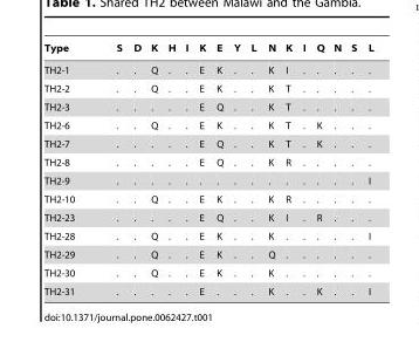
<table><thead><tr><td>Type</td><td>S</td><td>D</td><td>K</td><td>H</td><td>I</td><td>K</td><td>E</td><td>Y</td><td>L</td><td>N</td><td>K</td><td>I</td><td>Q</td><td>N</td><td>S</td><td>L</td></tr></thead><tbody><tr><td>TH2-1</td><td>.</td><td>.</td><td>Q</td><td>.</td><td>.</td><td>E</td><td>K</td><td>.</td><td>.</td><td>K</td><td>I</td><td>.</td><td>.</td><td>.</td><td>.</td><td>.</td></tr><tr><td>TH2-2</td><td>.</td><td>.</td><td>Q</td><td>.</td><td>.</td><td>E</td><td>K</td><td>.</td><td>.</td><td>K</td><td>T</td><td>.</td><td>.</td><td>.</td><td>.</td><td>.</td></tr><tr><td>TH2-3</td><td>.</td><td>.</td><td>.</td><td>.</td><td>.</td><td>E</td><td>Q</td><td>.</td><td>.</td><td>K</td><td>T</td><td>.</td><td>.</td><td>.</td><td>.</td><td>.</td></tr><tr><td>TH2-6</td><td>.</td><td>.</td><td>Q</td><td>.</td><td>.</td><td>E</td><td>K</td><td>.</td><td>.</td><td>K</td><td>T</td><td>.</td><td>K</td><td>.</td><td>.</td><td>.</td></tr><tr><td>TH2-7</td><td>.</td><td>.</td><td>.</td><td>.</td><td>.</td><td>E</td><td>Q</td><td>.</td><td>.</td><td>K</td><td>T</td><td>.</td><td>K</td><td>.</td><td>.</td><td>.</td></tr><tr><td>TH2-8</td><td>.</td><td>.</td><td>.</td><td>.</td><td>.</td><td>E</td><td>Q</td><td>.</td><td>.</td><td>K</td><td>R</td><td>.</td><td>.</td><td>.</td><td>.</td><td>.</td></tr><tr><td>TH2-9</td><td>.</td><td>.</td><td>.</td><td>.</td><td>.</td><td>.</td><td>.</td><td>.</td><td>.</td><td>.</td><td>.</td><td>.</td><td>.</td><td>.</td><td>.</td><td>I</td></tr><tr><td>TH2-10</td><td>.</td><td>.</td><td>Q</td><td>.</td><td>.</td><td>E</td><td>K</td><td>.</td><td>.</td><td>K</td><td>R</td><td>.</td><td>.</td><td>.</td><td>.</td><td>.</td></tr><tr><td>TH2-23</td><td>.</td><td>.</td><td>.</td><td>.</td><td>.</td><td>E</td><td>Q</td><td>.</td><td>.</td><td>K</td><td>I</td><td>.</td><td>R</td><td>.</td><td>.</td><td>.</td></tr><tr><td>TH2-28</td><td>.</td><td>.</td><td>Q</td><td>.</td><td>.</td><td>E</td><td>K</td><td>.</td><td>.</td><td>K</td><td>.</td><td>.</td><td>.</td><td>.</td><td>.</td><td>I</td></tr><tr><td>TH2-29</td><td>.</td><td>.</td><td>Q</td><td>.</td><td>.</td><td>E</td><td>K</td><td>.</td><td>.</td><td>Q</td><td>.</td><td>.</td><td>.</td><td>.</td><td>.</td><td>.</td></tr><tr><td>TH2-30</td><td>.</td><td>.</td><td>Q</td><td>.</td><td>.</td><td>E</td><td>K</td><td>.</td><td>.</td><td>K</td><td>.</td><td>.</td><td>.</td><td>.</td><td>.</td><td>.</td></tr><tr><td>TH2-31</td><td>.</td><td>.</td><td>.</td><td>.</td><td>.</td><td>E</td><td>.</td><td>.</td><td>.</td><td>K</td><td>.</td><td>.</td><td>K</td><td>.</td><td>.</td><td>I</td></tr></tbody></table>